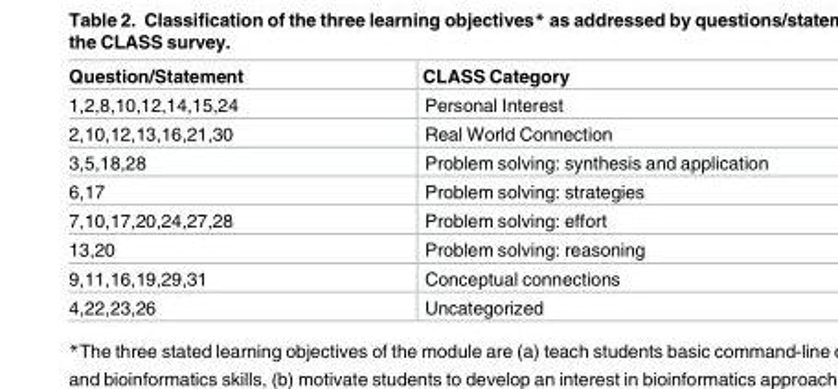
<table><thead><tr><td>Question/Statement</td><td>CLASS Category</td></tr></thead><tbody><tr><td>1,2,8,10,12,14,15,24</td><td>Personal Interest</td></tr><tr><td>2,10,12,13,16,21,30</td><td>Real World Connection</td></tr><tr><td>3,5,18,28</td><td>Problem solving: synthesis and application</td></tr><tr><td>6,17</td><td>Problem solving: strategies</td></tr><tr><td>7,10,17,20,24,27,28</td><td>Problem solving: effort</td></tr><tr><td>13,20</td><td>Problem solving: reasoning</td></tr><tr><td>9,11,16,19,29,31</td><td>Conceptual connections</td></tr><tr><td>4,22,23,26</td><td>Uncategorized</td></tr></tbody></table>